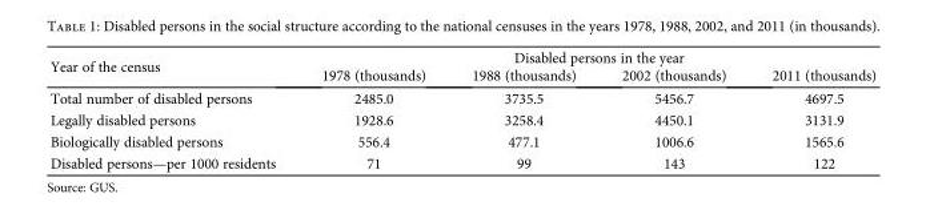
<table><thead><tr><td rowspan="2">Year of the census</td><td colspan="4">Disabled persons in the year</td></tr><tr><td>1978 (thousands)</td><td>1988 (thousands)</td><td>2002 (thousands)</td><td>2011 (thousands)</td></tr></thead><tbody><tr><td>Total number of disabled persons</td><td>2485.0</td><td>3735.5</td><td>5456.7</td><td>4697.5</td></tr><tr><td>Legally disabled persons</td><td>1928.6</td><td>3258.4</td><td>4450.1</td><td>3131.9</td></tr><tr><td>Biologically disabled persons</td><td>556.4</td><td>477.1</td><td>1006.6</td><td>1565.6</td></tr><tr><td>Disabled persons—per 1000 residents</td><td>71</td><td>99</td><td>143</td><td>122</td></tr></tbody></table>